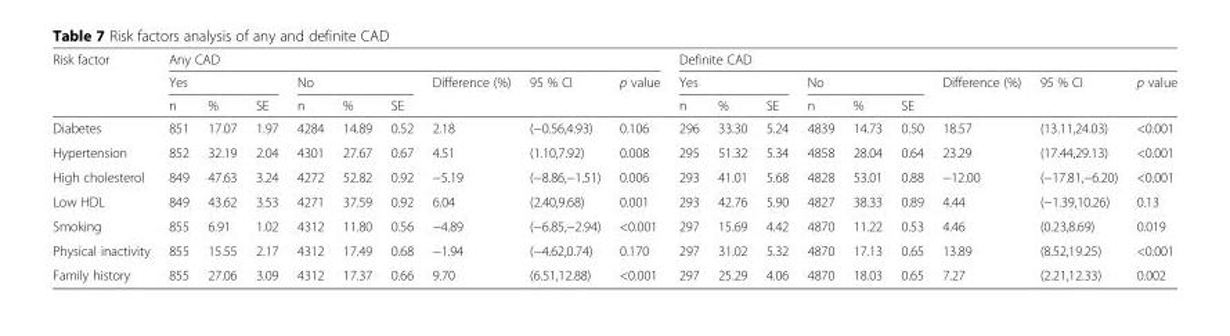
<table><thead><tr><td rowspan="3">Risk factor</td><td colspan="9">Any CAD</td><td colspan="9">Definite CAD</td></tr><tr><td colspan="3">Yes</td><td colspan="3">No</td><td rowspan="2">Difference (%)</td><td rowspan="2">95 % CI</td><td rowspan="2">p value</td><td colspan="3">Yes</td><td colspan="3">No</td><td rowspan="2">Difference (%)</td><td rowspan="2">95 % CI</td><td rowspan="2">p value</td></tr><tr><td>n</td><td>%</td><td>SE</td><td>n</td><td>%</td><td>SE</td><td>n</td><td>%</td><td>SE</td><td>n</td><td>%</td><td>SE</td></tr></thead><tbody><tr><td>Diabetes</td><td>851</td><td>17.07</td><td>1.97</td><td>4284</td><td>14.89</td><td>0.52</td><td>2.18</td><td>(−0.56,4.93)</td><td>0.106</td><td>296</td><td>33.30</td><td>5.24</td><td>4839</td><td>14.73</td><td>0.50</td><td>18.57</td><td>(13.11,24.03)</td><td>&lt;0.001</td></tr><tr><td>Hypertension</td><td>852</td><td>32.19</td><td>2.04</td><td>4301</td><td>27.67</td><td>0.67</td><td>4.51</td><td>(1.10,7.92)</td><td>0.008</td><td>295</td><td>51.32</td><td>5.34</td><td>4858</td><td>28.04</td><td>0.64</td><td>23.29</td><td>(17.44,29.13)</td><td>&lt;0.001</td></tr><tr><td>High cholesterol</td><td>849</td><td>47.63</td><td>3.24</td><td>4272</td><td>52.82</td><td>0.92</td><td>−5.19</td><td>(−8.86,−1.51)</td><td>0.006</td><td>293</td><td>41.01</td><td>5.68</td><td>4828</td><td>53.01</td><td>0.88</td><td>−12.00</td><td>(−17.81,−6.20)</td><td>&lt;0.001</td></tr><tr><td>Low HDL</td><td>849</td><td>43.62</td><td>3.53</td><td>4271</td><td>37.59</td><td>0.92</td><td>6.04</td><td>(2.40,9.68)</td><td>0.001</td><td>293</td><td>42.76</td><td>5.90</td><td>4827</td><td>38.33</td><td>0.89</td><td>4.44</td><td>(−1.39,10.26)</td><td>0.13</td></tr><tr><td>Smoking</td><td>855</td><td>6.91</td><td>1.02</td><td>4312</td><td>11.80</td><td>0.56</td><td>−4.89</td><td>(−6.85,−2.94)</td><td>&lt;0.001</td><td>297</td><td>15.69</td><td>4.42</td><td>4870</td><td>11.22</td><td>0.53</td><td>4.46</td><td>(0.23,8.69)</td><td>0.019</td></tr><tr><td>Physical inactivity</td><td>855</td><td>15.55</td><td>2.17</td><td>4312</td><td>17.49</td><td>0.68</td><td>−1.94</td><td>(−4.62,0.74)</td><td>0.170</td><td>297</td><td>31.02</td><td>5.32</td><td>4870</td><td>17.13</td><td>0.65</td><td>13.89</td><td>(8.52,19.25)</td><td>&lt;0.001</td></tr><tr><td>Family history</td><td>855</td><td>27.06</td><td>3.09</td><td>4312</td><td>17.37</td><td>0.66</td><td>9.70</td><td>(6.51,12.88)</td><td>&lt;0.001</td><td>297</td><td>25.29</td><td>4.06</td><td>4870</td><td>18.03</td><td>0.65</td><td>7.27</td><td>(2.21,12.33)</td><td>0.002</td></tr></tbody></table>